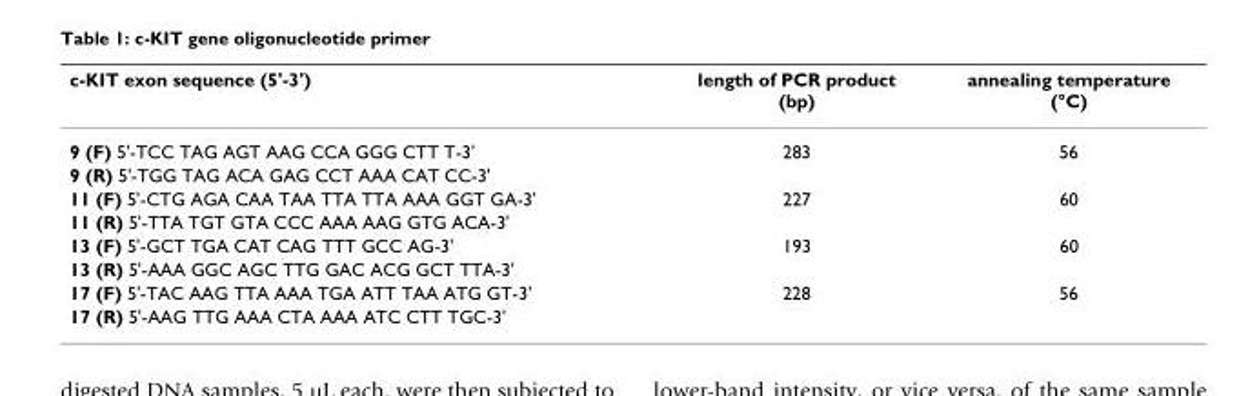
<table><thead><tr><td>c-KIT exon sequence (5&#x27;-3&#x27;)</td><td>length of PCR product (bp)</td><td>annealing temperature (°C)</td></tr></thead><tbody><tr><td>9 (F) 5&#x27;-TCC TAG AGT AAG CCA GGG CTT T-3&#x27;</td><td>283</td><td>56</td></tr><tr><td colspan="3">9 (R) 5&#x27;-TGG TAG ACA GAG CCT AAA CAT CC-3&#x27;</td></tr><tr><td>11 (F) 5&#x27;-CTG AGA CAA TAA TTA TTA AAA GGT GA-3&#x27;</td><td>227</td><td>60</td></tr><tr><td colspan="3">11 (R) 5&#x27;-TTA TGT GTA CCC AAA AAG GTG ACA-3&#x27;</td></tr><tr><td>13 (F) 5&#x27;-GCT TGA CAT CAG TTT GCC AG-3&#x27;</td><td>193</td><td>60</td></tr><tr><td colspan="3">13 (R) 5&#x27;-AAA GGC AGC TTG GAC ACG GCT TTA-3&#x27;</td></tr><tr><td>17 (F) 5&#x27;-TAC AAG TTA AAA TGA ATT TAA ATG GT-3&#x27;</td><td>228</td><td>56</td></tr><tr><td>17 (R) 5&#x27;-AAG TTG AAA CTA AAA ATC CTT TGC-3&#x27;</td><td></td><td></td></tr></tbody></table>